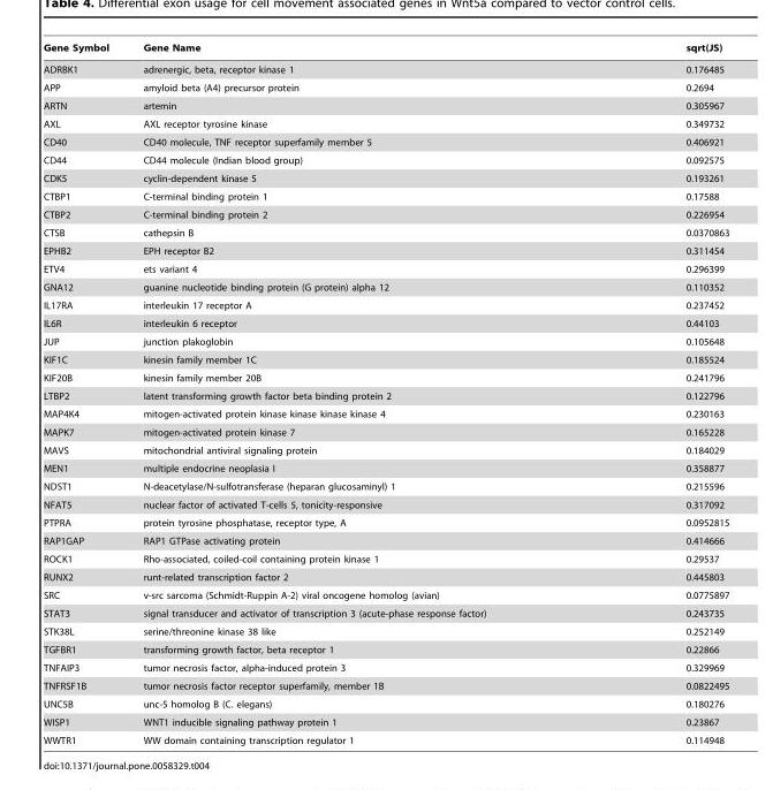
<table><thead><tr><td>Gene Symbol</td><td>Gene Name</td><td>sqrt(JS)</td></tr></thead><tbody><tr><td>ADRBK1</td><td>adrenergic, beta, receptor kinase 1</td><td>0.176485</td></tr><tr><td>APP</td><td>amyloid beta (A4) precursor protein</td><td>0.2694</td></tr><tr><td>ARTN</td><td>artemin</td><td>0.305967</td></tr><tr><td>AXL</td><td>AXL receptor tyrosine kinase</td><td>0.349732</td></tr><tr><td>CD40</td><td>CD40 molecule, TNF receptor superfamily member 5</td><td>0.406921</td></tr><tr><td>CD44</td><td>CD44 molecule (Indian blood group)</td><td>0.092575</td></tr><tr><td>CDK5</td><td>cyclin-dependent kinase 5</td><td>0.193261</td></tr><tr><td>CTBP1</td><td>C-terminal binding protein 1</td><td>0.17588</td></tr><tr><td>CTBP2</td><td>C-terminal binding protein 2</td><td>0.226954</td></tr><tr><td>CTSB</td><td>cathepsin B</td><td>0.0370863</td></tr><tr><td>EPHB2</td><td>EPH receptor B2</td><td>0.311454</td></tr><tr><td>ETV4</td><td>ets variant 4</td><td>0.296399</td></tr><tr><td>GNA12</td><td>guanine nucleotide binding protein (G protein) alpha 12</td><td>0.110352</td></tr><tr><td>IL17RA</td><td>interleukin 17 receptor A</td><td>0.237452</td></tr><tr><td>IL6R</td><td>interleukin 6 receptor</td><td>0.44103</td></tr><tr><td>JUP</td><td>junction plakoglobin</td><td>0.105648</td></tr><tr><td>KIF1C</td><td>kinesin family member 1C</td><td>0.185524</td></tr><tr><td>KIF20B</td><td>kinesin family member 20B</td><td>0.241796</td></tr><tr><td>LTBP2</td><td>latent transforming growth factor beta binding protein 2</td><td>0.122796</td></tr><tr><td>MAP4K4</td><td>mitogen-activated protein kinase kinase kinase kinase 4</td><td>0.230163</td></tr><tr><td>MAPK7</td><td>mitogen-activated protein kinase 7</td><td>0.165228</td></tr><tr><td>MAVS</td><td>mitochondrial antiviral signaling protein</td><td>0.184029</td></tr><tr><td>MEN1</td><td>multiple endocrine neoplasia I</td><td>0.358877</td></tr><tr><td>NDST1</td><td>N-deacetylase/N-sulfotransferase (heparan glucosaminyl) 1</td><td>0.215596</td></tr><tr><td>NFAT5</td><td>nuclear factor of activated T-cells 5, tonicity-responsive</td><td>0.317092</td></tr><tr><td>PTPRA</td><td>protein tyrosine phosphatase, receptor type, A</td><td>0.0952815</td></tr><tr><td>RAP1GAP</td><td>RAP1 GTPase activating protein</td><td>0.414666</td></tr><tr><td>ROCK1</td><td>Rho-associated, coiled-coil containing protein kinase 1</td><td>0.29537</td></tr><tr><td>RUNX2</td><td>runt-related transcription factor 2</td><td>0.445803</td></tr><tr><td>SRC</td><td>v-src sarcoma (Schmidt-Ruppin A-2) viral oncogene homolog (avian)</td><td>0.0775897</td></tr><tr><td>STAT3</td><td>signal transducer and activator of transcription 3 (acute-phase response factor)</td><td>0.243735</td></tr><tr><td>STK38L</td><td>serine/threonine kinase 38 like</td><td>0.252149</td></tr><tr><td>TGFBR1</td><td>transforming growth factor, beta receptor 1</td><td>0.22866</td></tr><tr><td>TNFAIP3</td><td>tumor necrosis factor, alpha-induced protein 3</td><td>0.329969</td></tr><tr><td>TNFRSF1B</td><td>tumor necrosis factor receptor superfamily, member 1B</td><td>0.0822495</td></tr><tr><td>UNC5B</td><td>unc-5 homolog B (C. elegans)</td><td>0.180276</td></tr><tr><td>WISP1</td><td>WNT1 inducible signaling pathway protein 1</td><td>0.23867</td></tr><tr><td>WWTR1</td><td>WW domain containing transcription regulator 1</td><td>0.114948</td></tr></tbody></table>